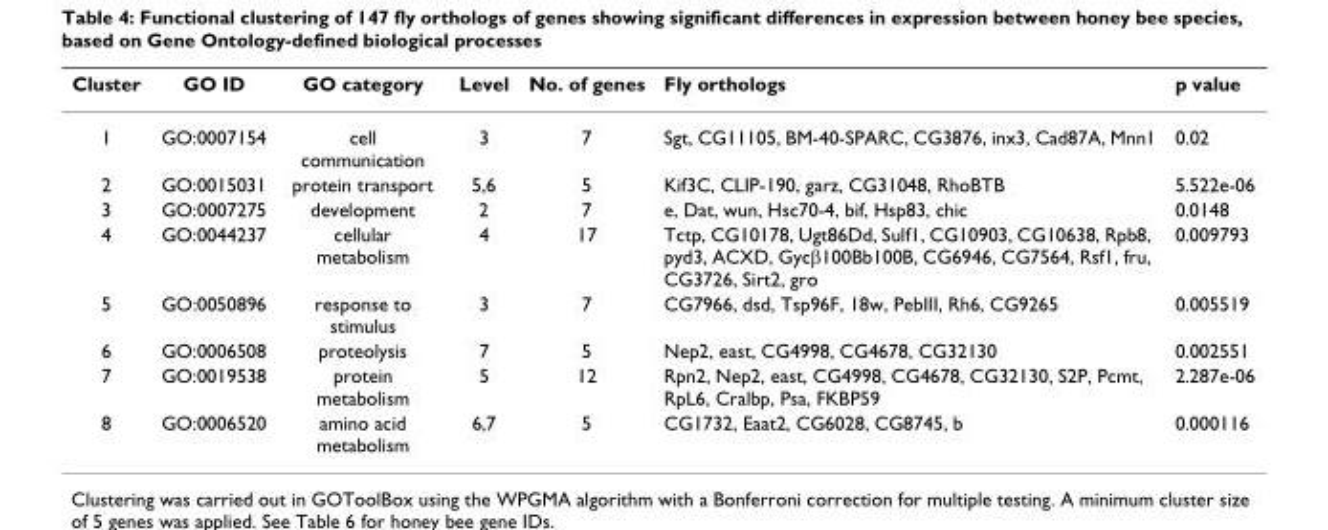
<table><thead><tr><td>Cluster</td><td>GO ID</td><td>GO category</td><td>Level</td><td>No. of genes</td><td>Fly orthologs</td><td>p value</td></tr></thead><tbody><tr><td>1</td><td>GO:0007154</td><td>cell communication</td><td>3</td><td>7</td><td>Sgt, CG11105, BM-40-SPARC, CG3876, inx3, Cad87A, Mnn1</td><td>0.02</td></tr><tr><td>2</td><td>GO:0015031</td><td>protein transport</td><td>5,6</td><td>5</td><td>Kif3C, CLIP-190, garz, CG31048, RhoBTB</td><td>5.522e-06</td></tr><tr><td>3</td><td>GO:0007275</td><td>development</td><td>2</td><td>7</td><td>e, Dat, wun, Hsc70-4, bif, Hsp83, chic</td><td>0.0148</td></tr><tr><td>4</td><td>GO:0044237</td><td>cellular metabolism</td><td>4</td><td>17</td><td>Tctp, CG10178, Ugt86Dd, Sulf1, CG10903, CG10638, Rpb8, pyd3, ACXD, Gycβ100Bb100B, CG6946, CG7564, Rsf1, fru, CG3726, Sirt2, gro</td><td>0.009793</td></tr><tr><td>5</td><td>GO:0050896</td><td>response to stimulus</td><td>3</td><td>7</td><td>CG7966, dsd, Tsp96F, 18w, PebIII, Rh6, CG9265</td><td>0.005519</td></tr><tr><td>6</td><td>GO:0006508</td><td>proteolysis</td><td>7</td><td>5</td><td>Nep2, east, CG4998, CG4678, CG32130</td><td>0.002551</td></tr><tr><td>7</td><td>GO:0019538</td><td>protein metabolism</td><td>5</td><td>12</td><td>Rpn2, Nep2, east, CG4998, CG4678, CG32130, S2P, Pcmt, RpL6, Cralbp, Psa, FKBP59</td><td>2.287e-06</td></tr><tr><td>8</td><td>GO:0006520</td><td>amino acid metabolism</td><td>6,7</td><td>5</td><td>CG1732, Eaat2, CG6028, CG8745, b</td><td>0.000116</td></tr></tbody></table>